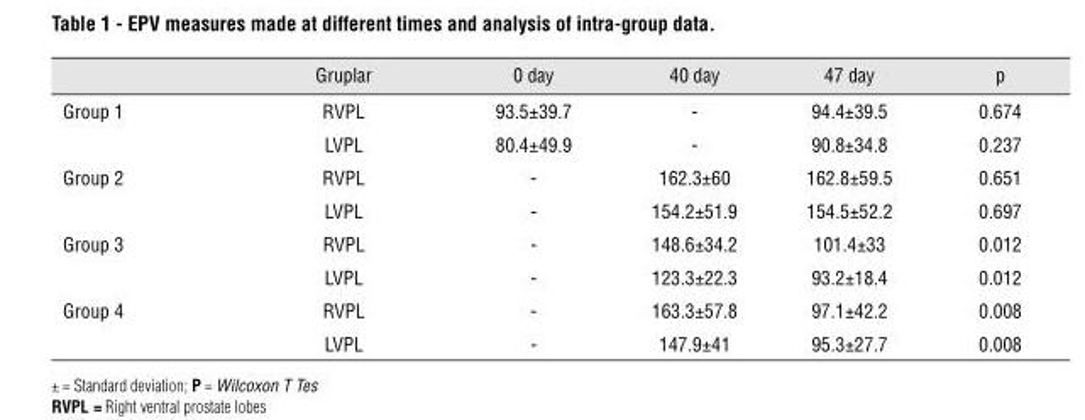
<table><thead><tr><td></td><td>Gruplar</td><td>0 day</td><td>40 day</td><td>47 day</td><td>p</td></tr></thead><tbody><tr><td rowspan="2">Group 1</td><td>RVPL</td><td>93.5±39.7</td><td>-</td><td>94.4±39.5</td><td>0.674</td></tr><tr><td>LVPL</td><td>80.4±49.9</td><td>-</td><td>90.8±34.8</td><td>0.237</td></tr><tr><td rowspan="2">Group 2</td><td>RVPL</td><td>-</td><td>162.3±60</td><td>162.8±59.5</td><td>0.651</td></tr><tr><td>LVPL</td><td>-</td><td>154.2±51.9</td><td>154.5±52.2</td><td>0.697</td></tr><tr><td rowspan="2">Group 3</td><td>RVPL</td><td>-</td><td>148.6±34.2</td><td>101.4±33</td><td>0.012</td></tr><tr><td>LVPL</td><td>-</td><td>123.3±22.3</td><td>93.2±18.4</td><td>0.012</td></tr><tr><td rowspan="2">Group 4</td><td>RVPL</td><td>-</td><td>163.3±57.8</td><td>97.1±42.2</td><td>0.008</td></tr><tr><td>LVPL</td><td>-</td><td>147.9±41</td><td>95.3±27.7</td><td>0.008</td></tr></tbody></table>